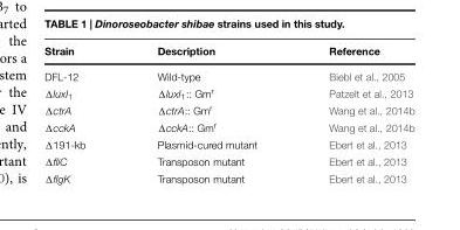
<table><thead><tr><td>Strain</td><td>Description</td><td>Reference</td></tr></thead><tbody><tr><td>DFL-12</td><td>Wild-type</td><td>Biebl et al., 2005</td></tr><tr><td>ΔluxI<sub>1</sub></td><td>ΔluxI<sub>1</sub>:: Gm<sup>r</sup></td><td>Patzelt et al., 2013</td></tr><tr><td>ΔctrA</td><td>ΔctrA:: Gm<sup>r</sup></td><td>Wang et al., 2014b</td></tr><tr><td>ΔcckA</td><td>ΔcckA:: Gm<sup>r</sup></td><td>Wang et al., 2014b</td></tr><tr><td>Δ191-kb</td><td>Plasmid-cured mutant</td><td>Ebert et al., 2013</td></tr><tr><td>ΔfliC</td><td>Transposon mutant</td><td>Ebert et al., 2013</td></tr><tr><td>ΔflgK</td><td>Transposon mutant</td><td>Ebert et al., 2013</td></tr></tbody></table>